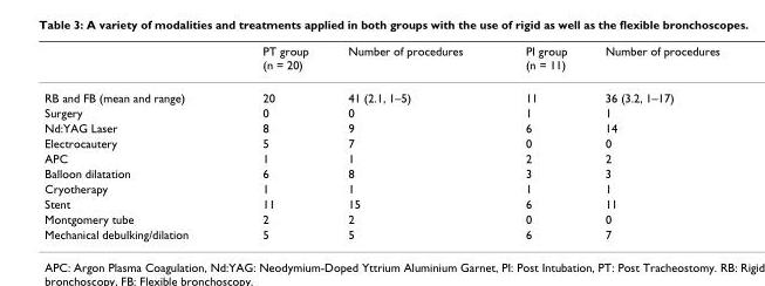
<table><thead><tr><td></td><td>PT group (n = 20)</td><td>Number of procedures</td><td>PI group (n = 11)</td><td>Number of procedures</td></tr></thead><tbody><tr><td>RB and FB (mean and range)</td><td>20</td><td>41 (2.1, 1–5)</td><td>11</td><td>36 (3.2, 1–17)</td></tr><tr><td>Surgery</td><td>0</td><td>0</td><td>1</td><td>1</td></tr><tr><td>Nd:YAG Laser</td><td>8</td><td>9</td><td>6</td><td>14</td></tr><tr><td>Electrocautery</td><td>5</td><td>7</td><td>0</td><td>0</td></tr><tr><td>APC</td><td>1</td><td>1</td><td>2</td><td>2</td></tr><tr><td>Balloon dilatation</td><td>6</td><td>8</td><td>3</td><td>3</td></tr><tr><td>Cryotherapy</td><td>1</td><td>1</td><td>1</td><td>1</td></tr><tr><td>Stent</td><td>11</td><td>15</td><td>6</td><td>11</td></tr><tr><td>Montgomery tube</td><td>2</td><td>2</td><td>0</td><td>0</td></tr><tr><td>Mechanical debulking/dilation</td><td>5</td><td>5</td><td>6</td><td>7</td></tr></tbody></table>